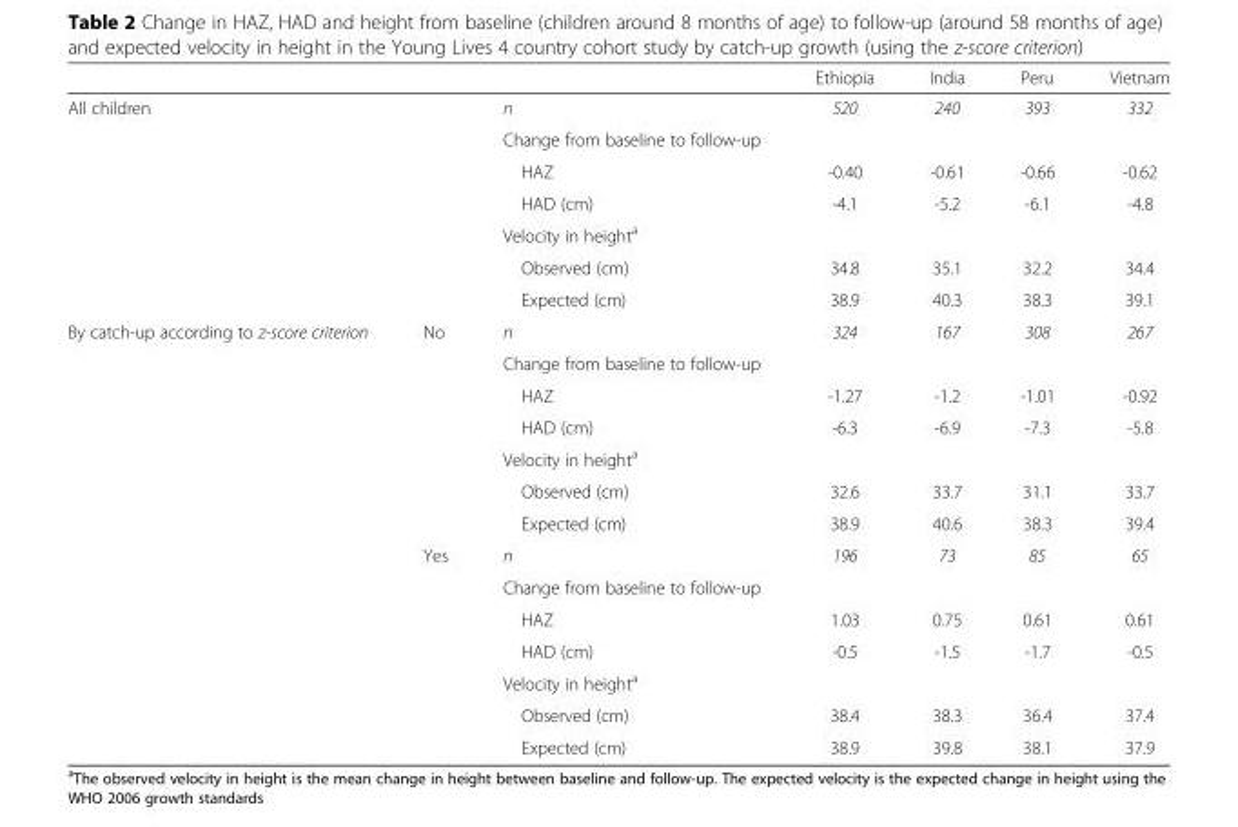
<table><thead><tr><td></td><td></td><td></td><td>Ethiopia</td><td>India</td><td>Peru</td><td>Vietnam</td></tr></thead><tbody><tr><td rowspan="7">All children</td><td></td><td>n</td><td>520</td><td>240</td><td>393</td><td>332</td></tr><tr><td></td><td>Change from baseline to follow-up</td><td></td><td></td><td></td><td></td></tr><tr><td></td><td>HAZ</td><td>-0.40</td><td>-0.61</td><td>-0.66</td><td>-0.62</td></tr><tr><td></td><td>HAD (cm)</td><td>-4.1</td><td>-5.2</td><td>-6.1</td><td>-4.8</td></tr><tr><td></td><td>Velocity in height<sup>a</sup></td><td></td><td></td><td></td><td></td></tr><tr><td></td><td>Observed (cm)</td><td>34.8</td><td>35.1</td><td>32.2</td><td>34.4</td></tr><tr><td></td><td>Expected (cm)</td><td>38.9</td><td>40.3</td><td>38.3</td><td>39.1</td></tr><tr><td rowspan="14">By catch-up according to z-score criterion</td><td>No</td><td>n</td><td>324</td><td>167</td><td>308</td><td>267</td></tr><tr><td></td><td>Change from baseline to follow-up</td><td></td><td></td><td></td><td></td></tr><tr><td></td><td>HAZ</td><td>-1.27</td><td>-1.2</td><td>-1.01</td><td>-0.92</td></tr><tr><td></td><td>HAD (cm)</td><td>-6.3</td><td>-6.9</td><td>-7.3</td><td>-5.8</td></tr><tr><td></td><td>Velocity in height<sup>a</sup></td><td></td><td></td><td></td><td></td></tr><tr><td></td><td>Observed (cm)</td><td>32.6</td><td>33.7</td><td>31.1</td><td>33.7</td></tr><tr><td></td><td>Expected (cm)</td><td>38.9</td><td>40.6</td><td>38.3</td><td>39.4</td></tr><tr><td>Yes</td><td>n</td><td>196</td><td>73</td><td>85</td><td>65</td></tr><tr><td></td><td>Change from baseline to follow-up</td><td></td><td></td><td></td><td></td></tr><tr><td></td><td>HAZ</td><td>1.03</td><td>0.75</td><td>0.61</td><td>0.61</td></tr><tr><td></td><td>HAD (cm)</td><td>-0.5</td><td>-1.5</td><td>-1.7</td><td>-0.5</td></tr><tr><td></td><td>Velocity in height<sup>a</sup></td><td></td><td></td><td></td><td></td></tr><tr><td></td><td>Observed (cm)</td><td>38.4</td><td>38.3</td><td>36.4</td><td>37.4</td></tr><tr><td></td><td>Expected (cm)</td><td>38.9</td><td>39.8</td><td>38.1</td><td>37.9</td></tr></tbody></table>